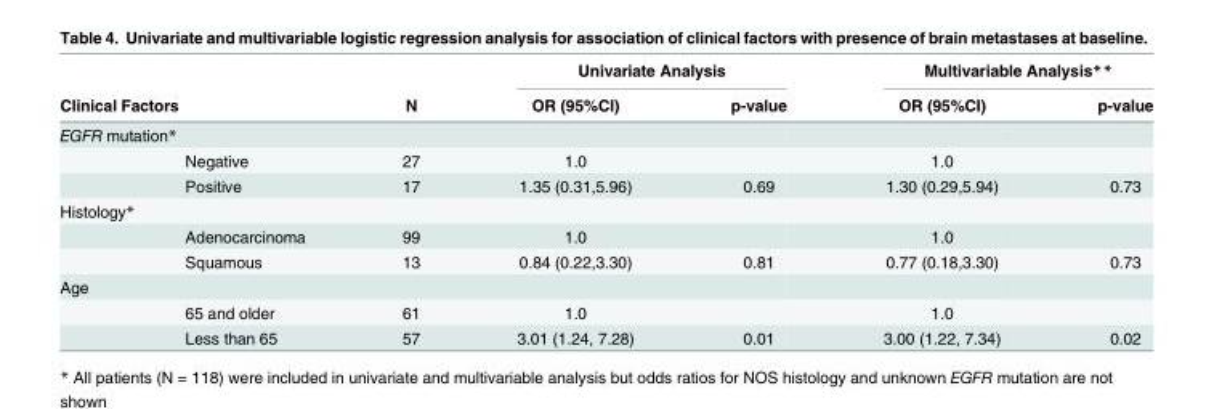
<table><thead><tr><td></td><td></td><td rowspan="2">N</td><td colspan="2">Univariate Analysis</td><td colspan="2">Multivariable Analysis**</td></tr><tr><td colspan="2">Clinical Factors</td><td>OR (95%CI)</td><td>p-value</td><td>OR (95%CI)</td><td>p-value</td></tr></thead><tbody><tr><td colspan="7">EGFR mutation*</td></tr><tr><td></td><td>Negative</td><td>27</td><td>1.0</td><td></td><td>1.0</td><td></td></tr><tr><td></td><td>Positive</td><td>17</td><td>1.35 (0.31,5.96)</td><td>0.69</td><td>1.30 (0.29,5.94)</td><td>0.73</td></tr><tr><td colspan="7">Histology*</td></tr><tr><td></td><td>Adenocarcinoma</td><td>99</td><td>1.0</td><td></td><td>1.0</td><td></td></tr><tr><td></td><td>Squamous</td><td>13</td><td>0.84 (0.22,3.30)</td><td>0.81</td><td>0.77 (0.18,3.30)</td><td>0.73</td></tr><tr><td colspan="7">Age</td></tr><tr><td></td><td>65 and older</td><td>61</td><td>1.0</td><td></td><td>1.0</td><td></td></tr><tr><td></td><td>Less than 65</td><td>57</td><td>3.01 (1.24, 7.28)</td><td>0.01</td><td>3.00 (1.22, 7.34)</td><td>0.02</td></tr></tbody></table>